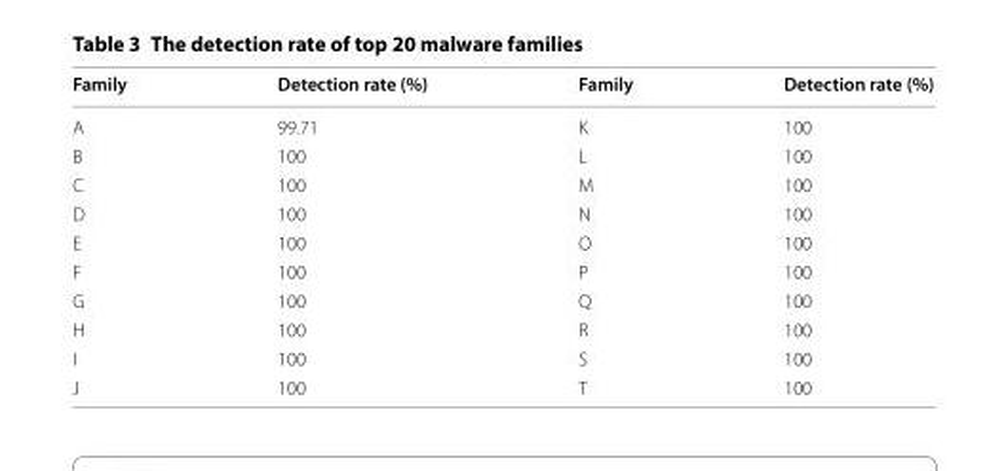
<table><thead><tr><td>Family</td><td>Detection rate (%)</td><td>Family</td><td>Detection rate (%)</td></tr></thead><tbody><tr><td>A</td><td>99.71</td><td>K</td><td>100</td></tr><tr><td>B</td><td>100</td><td>L</td><td>100</td></tr><tr><td>C</td><td>100</td><td>M</td><td>100</td></tr><tr><td>D</td><td>100</td><td>N</td><td>100</td></tr><tr><td>E</td><td>100</td><td>O</td><td>100</td></tr><tr><td>F</td><td>100</td><td>P</td><td>100</td></tr><tr><td>G</td><td>100</td><td>Q</td><td>100</td></tr><tr><td>H</td><td>100</td><td>R</td><td>100</td></tr><tr><td>I</td><td>100</td><td>S</td><td>100</td></tr><tr><td>J</td><td>100</td><td>T</td><td>100</td></tr></tbody></table>